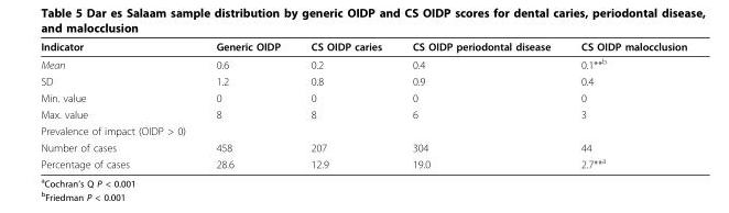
<table><thead><tr><td>Indicator</td><td>Generic OIDP</td><td>CS OIDP caries</td><td>CS OIDP periodontal disease</td><td>CS OIDP malocclusion</td></tr></thead><tbody><tr><td>Mean</td><td>0.6</td><td>0.2</td><td>0.4</td><td>0.1**<sup>b</sup></td></tr><tr><td>SD</td><td>1.2</td><td>0.8</td><td>0.9</td><td>0.4</td></tr><tr><td>Min. value</td><td>0</td><td>0</td><td>0</td><td>0</td></tr><tr><td>Max. value</td><td>8</td><td>8</td><td>6</td><td>3</td></tr><tr><td colspan="5">Prevalence of impact (OIDP &gt; 0)</td></tr><tr><td>Number of cases</td><td>458</td><td>207</td><td>304</td><td>44</td></tr><tr><td>Percentage of cases</td><td>28.6</td><td>12.9</td><td>19.0</td><td>2.7**<sup>a</sup></td></tr></tbody></table>